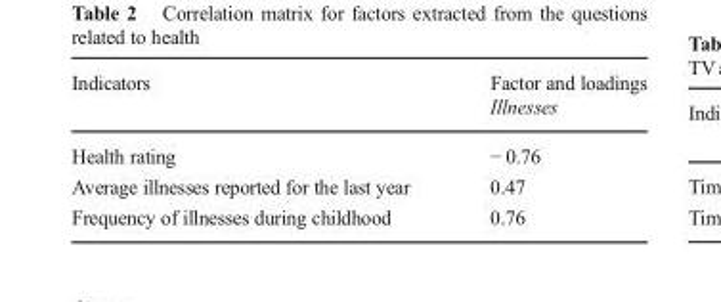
<table><thead><tr><td rowspan="2">Indicators</td><td rowspan="2">Factor and loadings Illnesses</td></tr><tr></tr></thead><tbody><tr><td>Health rating</td><td>− 0.76</td></tr><tr><td>Average illnesses reported for the last year</td><td>0.47</td></tr><tr><td>Frequency of illnesses during childhood</td><td>0.76</td></tr></tbody></table>